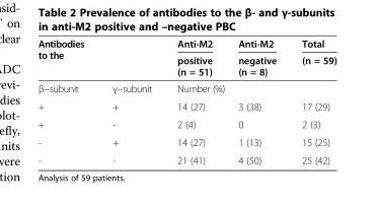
<table><thead><tr><td rowspan="2">Antibodies to the</td><td rowspan="2"></td><td rowspan="2">Anti-M2 positive (n = 51)</td><td rowspan="2">Anti-M2 negative (n = 8)</td><td rowspan="2">Total (n = 59)</td></tr><tr></tr></thead><tbody><tr><td>β−subunit</td><td>γ−subunit</td><td colspan="3">Number (%)</td></tr><tr><td>+</td><td>+</td><td>14 (27)</td><td>3 (38)</td><td>17 (29)</td></tr><tr><td>+</td><td>-</td><td>2 (4)</td><td>0</td><td>2 (3)</td></tr><tr><td>-</td><td>+</td><td>14 (27)</td><td>1 (13)</td><td>15 (25)</td></tr><tr><td>-</td><td>-</td><td>21 (41)</td><td>4 (50)</td><td>25 (42)</td></tr></tbody></table>